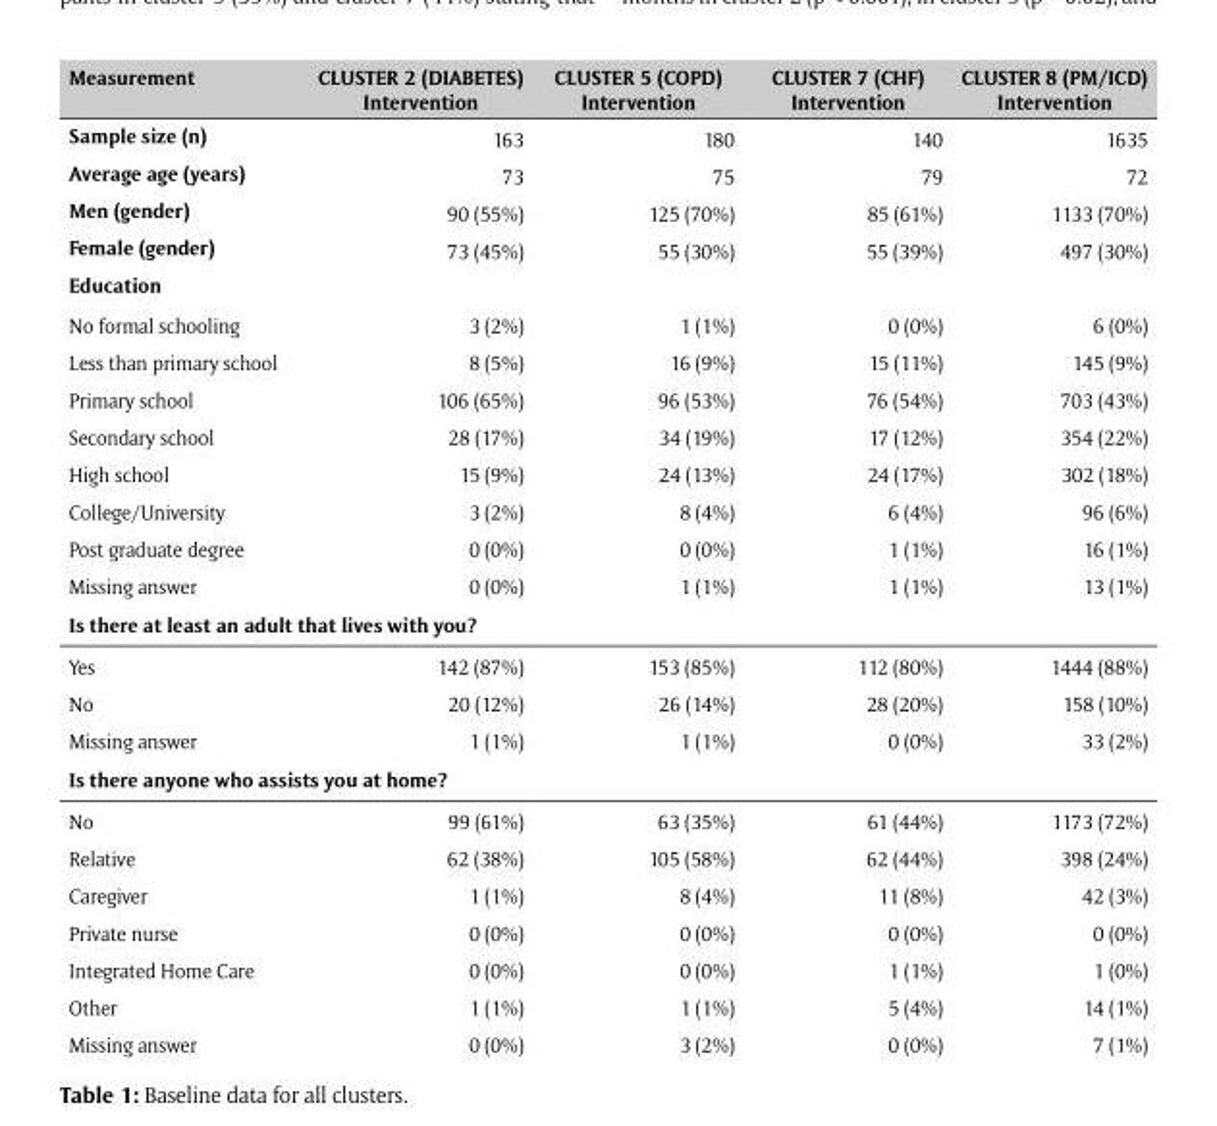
<table><thead><tr><td>Measurement</td><td>CLUSTER 2 (DIABETES) Intervention</td><td>CLUSTER 5 (COPD) Intervention</td><td>CLUSTER 7 (CHF) Intervention</td><td>CLUSTER 8 (PM/ICD) Intervention</td></tr></thead><tbody><tr><td>Sample size (n)</td><td>163</td><td>180</td><td>140</td><td>1635</td></tr><tr><td>Average age (years)</td><td>73</td><td>75</td><td>79</td><td>72</td></tr><tr><td>Men (gender)</td><td>90 (55%)</td><td>125 (70%)</td><td>85 (61%)</td><td>1133 (70%)</td></tr><tr><td>Female (gender)</td><td>73 (45%)</td><td>55 (30%)</td><td>55 (39%)</td><td>497 (30%)</td></tr><tr><td colspan="5">Education</td></tr><tr><td>No formal schooling</td><td>3 (2%)</td><td>1 (1%)</td><td>0 (0%)</td><td>6 (0%)</td></tr><tr><td>Less than primary school</td><td>8 (5%)</td><td>16 (9%)</td><td>15 (11%)</td><td>145 (9%)</td></tr><tr><td>Primary school</td><td>106 (65%)</td><td>96 (53%)</td><td>76 (54%)</td><td>703 (43%)</td></tr><tr><td>Secondary school</td><td>28 (17%)</td><td>34 (19%)</td><td>17 (12%)</td><td>354 (22%)</td></tr><tr><td>High school</td><td>15 (9%)</td><td>24 (13%)</td><td>24 (17%)</td><td>302 (18%)</td></tr><tr><td>College/University</td><td>3 (2%)</td><td>8 (4%)</td><td>6 (4%)</td><td>96 (6%)</td></tr><tr><td>Post graduate degree</td><td>0 (0%)</td><td>0 (0%)</td><td>1 (1%)</td><td>16 (1%)</td></tr><tr><td>Missing answer</td><td>0 (0%)</td><td>1 (1%)</td><td>1 (1%)</td><td>13 (1%)</td></tr><tr><td colspan="5">Is there at least an adult that lives with you?</td></tr><tr><td>Yes</td><td>142 (87%)</td><td>153 (85%)</td><td>112 (80%)</td><td>1444 (88%)</td></tr><tr><td>No</td><td>20 (12%)</td><td>26 (14%)</td><td>28 (20%)</td><td>158 (10%)</td></tr><tr><td>Missing answer</td><td>1 (1%)</td><td>1 (1%)</td><td>0 (0%)</td><td>33 (2%)</td></tr><tr><td colspan="5">Is there anyone who assists you at home?</td></tr><tr><td>No</td><td>99 (61%)</td><td>63 (35%)</td><td>61 (44%)</td><td>1173 (72%)</td></tr><tr><td>Relative</td><td>62 (38%)</td><td>105 (58%)</td><td>62 (44%)</td><td>398 (24%)</td></tr><tr><td>Caregiver</td><td>1 (1%)</td><td>8 (4%)</td><td>11 (8%)</td><td>42 (3%)</td></tr><tr><td>Private nurse</td><td>0 (0%)</td><td>0 (0%)</td><td>0 (0%)</td><td>0 (0%)</td></tr><tr><td>Integrated Home Care</td><td>0 (0%)</td><td>0 (0%)</td><td>1 (1%)</td><td>1 (0%)</td></tr><tr><td>Other</td><td>1 (1%)</td><td>1 (1%)</td><td>5 (4%)</td><td>14 (1%)</td></tr><tr><td>Missing answer</td><td>0 (0%)</td><td>3 (2%)</td><td>0 (0%)</td><td>7 (1%)</td></tr></tbody></table>